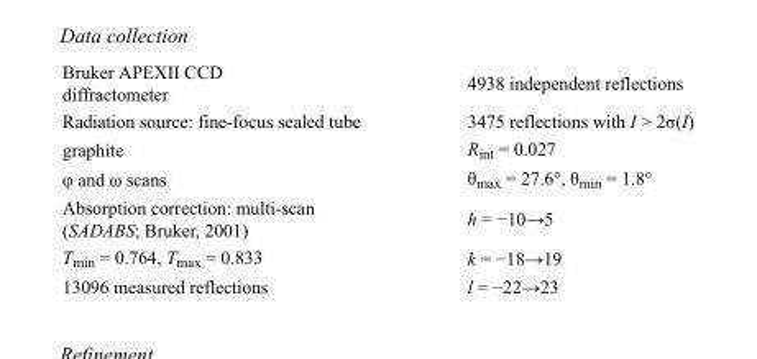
<table><tbody><tr><td>Bruker APEXII CCD diffractometer</td><td>4938 independent reflections</td></tr><tr><td>Radiation source: fine-focus sealed tube</td><td>3475 reflections with I &gt; 2σ(I)</td></tr><tr><td>graphite</td><td>R<sub>int</sub> = 0.027</td></tr><tr><td>φ and ω scans</td><td>θ<sub>max</sub> = 27.6°, θ<sub>min</sub> = 1.8°</td></tr><tr><td>Absorption correction: multi-scan (SADABS; Bruker, 2001)</td><td>h = −10→5</td></tr><tr><td>T<sub>min</sub> = 0.764, T<sub>max</sub> = 0.833</td><td>k = −18→19</td></tr><tr><td>13096 measured reflections</td><td>l = −22→23</td></tr></tbody></table>